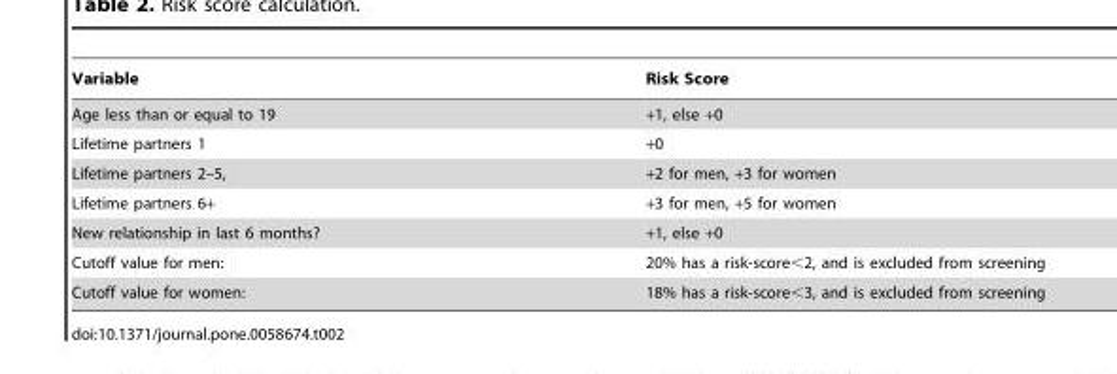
<table><thead><tr><td>Variable</td><td>Risk Score</td></tr></thead><tbody><tr><td>Age less than or equal to 19</td><td>+1, else +0</td></tr><tr><td>Lifetime partners 1</td><td>+0</td></tr><tr><td>Lifetime partners 2–5,</td><td>+2 for men, +3 for women</td></tr><tr><td>Lifetime partners 6+</td><td>+3 for men, +5 for women</td></tr><tr><td>New relationship in last 6 months?</td><td>+1, else +0</td></tr><tr><td>Cutoff value for men:</td><td>20% has a risk-score&lt;2, and is excluded from screening</td></tr><tr><td>Cutoff value for women:</td><td>18% has a risk-score&lt;3, and is excluded from screening</td></tr></tbody></table>